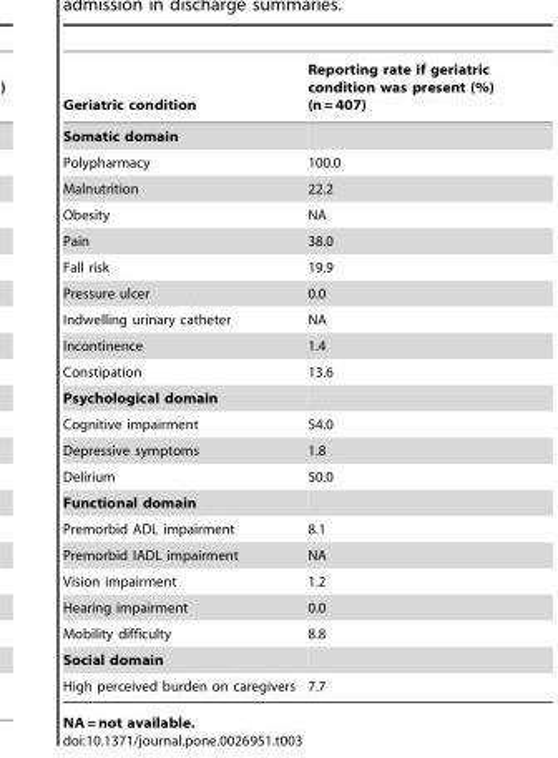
<table><thead><tr><td>Geriatric condition</td><td>Reporting rate if geriatric condition was present (%) (n = 407)</td></tr></thead><tbody><tr><td colspan="2">Somatic domain</td></tr><tr><td>Polypharmacy</td><td>100.0</td></tr><tr><td>Malnutrition</td><td>22.2</td></tr><tr><td>Obesity</td><td>NA</td></tr><tr><td>Pain</td><td>38.0</td></tr><tr><td>Fall risk</td><td>19.9</td></tr><tr><td>Pressure ulcer</td><td>0.0</td></tr><tr><td>Indwelling urinary catheter</td><td>NA</td></tr><tr><td>Incontinence</td><td>1.4</td></tr><tr><td>Constipation</td><td>13.6</td></tr><tr><td colspan="2">Psychological domain</td></tr><tr><td>Cognitive impairment</td><td>54.0</td></tr><tr><td>Depressive symptoms</td><td>1.8</td></tr><tr><td>Delirium</td><td>50.0</td></tr><tr><td colspan="2">Functional domain</td></tr><tr><td>Premorbid ADL impairment</td><td>8.1</td></tr><tr><td>Premorbid IADL impairment</td><td>NA</td></tr><tr><td>Vision impairment</td><td>1.2</td></tr><tr><td>Hearing impairment</td><td>0.0</td></tr><tr><td>Mobility difficulty</td><td>8.8</td></tr><tr><td colspan="2">Social domain</td></tr><tr><td>High perceived burden on caregivers</td><td>7.7</td></tr></tbody></table>